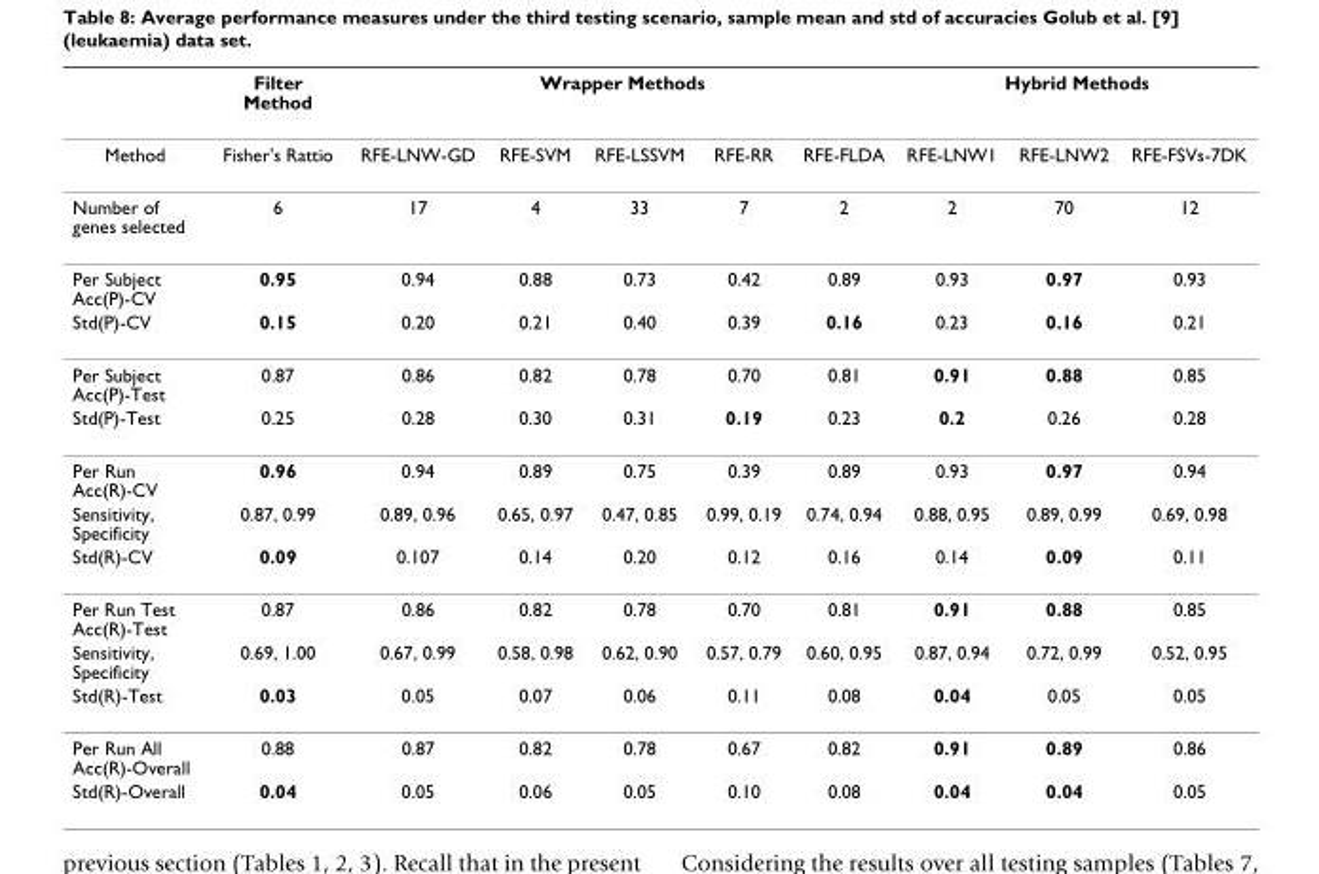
<table><thead><tr><td rowspan="2">Method</td><td rowspan="2">Filter Method Fisher&#x27;s Rattio</td><td colspan="5">Wrapper Methods</td><td colspan="3">Hybrid Methods</td></tr><tr><td>RFE-LNW-GD</td><td>RFE-SVM</td><td>RFE-LSSVM</td><td>RFE-RR</td><td>RFE-FLDA</td><td>RFE-LNW1</td><td>RFE-LNW2</td><td>RFE-FSVs-7DK</td></tr></thead><tbody><tr><td>Number of genes selected</td><td>6</td><td>17</td><td>4</td><td>33</td><td>7</td><td>2</td><td>2</td><td>70</td><td>12</td></tr><tr><td>Per Subject Acc(P)-CV</td><td>0.95</td><td>0.94</td><td>0.88</td><td>0.73</td><td>0.42</td><td>0.89</td><td>0.93</td><td>0.97</td><td>0.93</td></tr><tr><td>Std(P)-CV</td><td>0.15</td><td>0.20</td><td>0.21</td><td>0.40</td><td>0.39</td><td>0.16</td><td>0.23</td><td>0.16</td><td>0.21</td></tr><tr><td>Per Subject Acc(P)-Test</td><td>0.87</td><td>0.86</td><td>0.82</td><td>0.78</td><td>0.70</td><td>0.81</td><td>0.91</td><td>0.88</td><td>0.85</td></tr><tr><td>Std(P)-Test</td><td>0.25</td><td>0.28</td><td>0.30</td><td>0.31</td><td>0.19</td><td>0.23</td><td>0.2</td><td>0.26</td><td>0.28</td></tr><tr><td>Per Run Acc(R)-CV</td><td>0.96</td><td>0.94</td><td>0.89</td><td>0.75</td><td>0.39</td><td>0.89</td><td>0.93</td><td>0.97</td><td>0.94</td></tr><tr><td>Sensitivity, Specificity</td><td>0.87, 0.99</td><td>0.89, 0.96</td><td>0.65, 0.97</td><td>0.47, 0.85</td><td>0.99, 0.19</td><td>0.74, 0.94</td><td>0.88, 0.95</td><td>0.89, 0.99</td><td>0.69, 0.98</td></tr><tr><td>Std(R)-CV</td><td>0.09</td><td>0.107</td><td>0.14</td><td>0.20</td><td>0.12</td><td>0.16</td><td>0.14</td><td>0.09</td><td>0.11</td></tr><tr><td>Per Run Test Acc(R)-Test</td><td>0.87</td><td>0.86</td><td>0.82</td><td>0.78</td><td>0.70</td><td>0.81</td><td>0.91</td><td>0.88</td><td>0.85</td></tr><tr><td>Sensitivity, Specificity</td><td>0.69, 1.00</td><td>0.67, 0.99</td><td>0.58, 0.98</td><td>0.62, 0.90</td><td>0.57, 0.79</td><td>0.60, 0.95</td><td>0.87, 0.94</td><td>0.72, 0.99</td><td>0.52, 0.95</td></tr><tr><td>Std(R)-Test</td><td>0.03</td><td>0.05</td><td>0.07</td><td>0.06</td><td>0.11</td><td>0.08</td><td>0.04</td><td>0.05</td><td>0.05</td></tr><tr><td>Per Run All Acc(R)-Overall</td><td>0.88</td><td>0.87</td><td>0.82</td><td>0.78</td><td>0.67</td><td>0.82</td><td>0.91</td><td>0.89</td><td>0.86</td></tr><tr><td>Std(R)-Overall</td><td>0.04</td><td>0.05</td><td>0.06</td><td>0.05</td><td>0.10</td><td>0.08</td><td>0.04</td><td>0.04</td><td>0.05</td></tr></tbody></table>